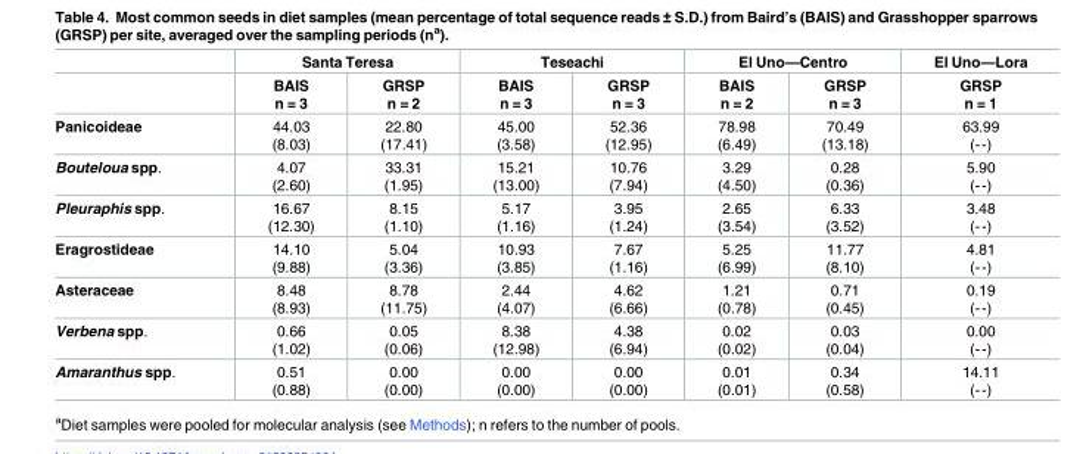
<table><thead><tr><td rowspan="2"></td><td colspan="2">Santa Teresa</td><td colspan="2">Teseachi</td><td colspan="2">El Uno—Centro</td><td rowspan="2">El Uno—Lora GRSP n = 1</td></tr><tr><td>BAIS n = 3</td><td>GRSP n = 2</td><td>BAIS n = 3</td><td>GRSP n = 3</td><td>BAIS n = 2</td><td>GRSP n = 3</td></tr></thead><tbody><tr><td>Panicoideae</td><td>44.03 (8.03)</td><td>22.80 (17.41)</td><td>45.00 (3.58)</td><td>52.36 (12.95)</td><td>78.98 (6.49)</td><td>70.49 (13.18)</td><td>63.99 (--)</td></tr><tr><td>Bouteloua spp.</td><td>4.07 (2.60)</td><td>33.31 (1.95)</td><td>15.21 (13.00)</td><td>10.76 (7.94)</td><td>3.29 (4.50)</td><td>0.28 (0.36)</td><td>5.90 (--)</td></tr><tr><td>Pleuraphis spp.</td><td>16.67 (12.30)</td><td>8.15 (1.10)</td><td>5.17 (1.16)</td><td>3.95 (1.24)</td><td>2.65 (3.54)</td><td>6.33 (3.52)</td><td>3.48 (--)</td></tr><tr><td>Eragrostideae</td><td>14.10 (9.88)</td><td>5.04 (3.36)</td><td>10.93 (3.85)</td><td>7.67 (1.16)</td><td>5.25 (6.99)</td><td>11.77 (8.10)</td><td>4.81 (--)</td></tr><tr><td>Asteraceae</td><td>8.48 (8.93)</td><td>8.78 (11.75)</td><td>2.44 (4.07)</td><td>4.62 (6.66)</td><td>1.21 (0.78)</td><td>0.71 (0.45)</td><td>0.19 (--)</td></tr><tr><td>Verbena spp.</td><td>0.66 (1.02)</td><td>0.05 (0.06)</td><td>8.38 (12.98)</td><td>4.38 (6.94)</td><td>0.02 (0.02)</td><td>0.03 (0.04)</td><td>0.00 (--)</td></tr><tr><td>Amaranthus spp.</td><td>0.51 (0.88)</td><td>0.00 (0.00)</td><td>0.00 (0.00)</td><td>0.00 (0.00)</td><td>0.01 (0.01)</td><td>0.34 (0.58)</td><td>14.11 (--)</td></tr></tbody></table>